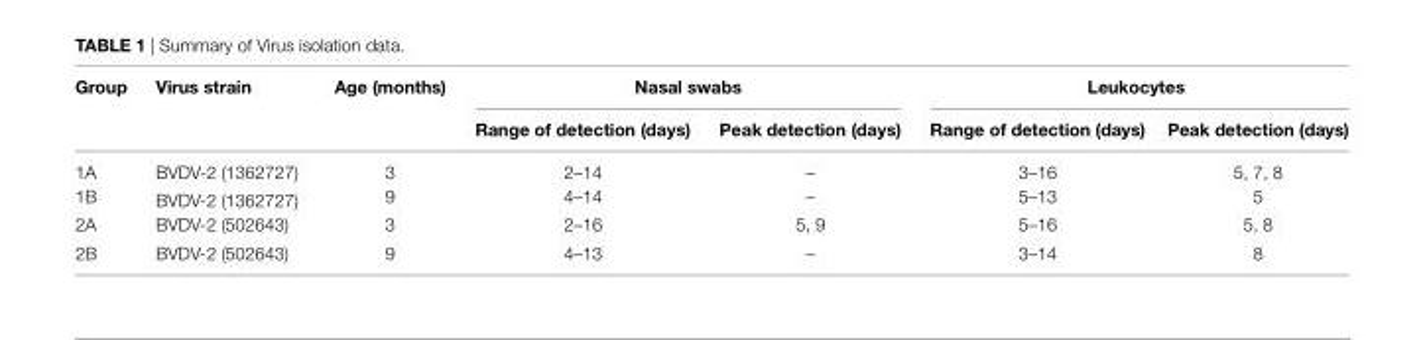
<table><thead><tr><td rowspan="2">group</td><td rowspan="2">Virus strain</td><td rowspan="2">age (months)</td><td colspan="2">nasal swabs</td><td colspan="2">leukocytes</td></tr><tr><td>range of detection (days)</td><td>Peak detection (days)</td><td>range of detection (days)</td><td>Peak detection (days)</td></tr></thead><tbody><tr><td>1A</td><td>BVDV-2 (1362727)</td><td>3</td><td>2–14</td><td>–</td><td>3–16</td><td>5, 7, 8</td></tr><tr><td>1B</td><td>BVDV-2 (1362727)</td><td>9</td><td>4–14</td><td>–</td><td>5–13</td><td>5</td></tr><tr><td>2A</td><td>BVDV-2 (502643)</td><td>3</td><td>2–16</td><td>5, 9</td><td>5–16</td><td>5, 8</td></tr><tr><td>2B</td><td>BVDV-2 (502643)</td><td>9</td><td>4–13</td><td>–</td><td>3–14</td><td>8</td></tr></tbody></table>